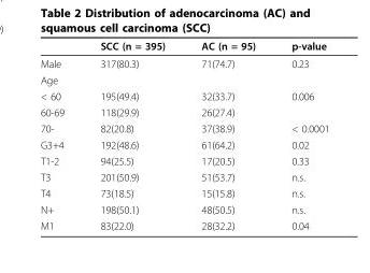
<table><thead><tr><td></td><td>SCC (n = 395)</td><td>AC (n = 95)</td><td>p-value</td></tr></thead><tbody><tr><td>Male</td><td>317(80.3)</td><td>71(74.7)</td><td>0.23</td></tr><tr><td colspan="4">Age</td></tr><tr><td>&lt; 60</td><td>195(49.4)</td><td>32(33.7)</td><td>0.006</td></tr><tr><td>60-69</td><td>118(29.9)</td><td>26(27.4)</td><td></td></tr><tr><td>70-</td><td>82(20.8)</td><td>37(38.9)</td><td>&lt; 0.0001</td></tr><tr><td>G3+4</td><td>192(48.6)</td><td>61(64.2)</td><td>0.02</td></tr><tr><td>T1-2</td><td>94(25.5)</td><td>17(20.5)</td><td>0.33</td></tr><tr><td>T3</td><td>201(50.9)</td><td>51(53.7)</td><td>n.s.</td></tr><tr><td>T4</td><td>73(18.5)</td><td>15(15.8)</td><td>n.s.</td></tr><tr><td>N+</td><td>198(50.1)</td><td>48(50.5)</td><td>n.s.</td></tr><tr><td>M1</td><td>83(22.0)</td><td>28(32.2)</td><td>0.04</td></tr></tbody></table>